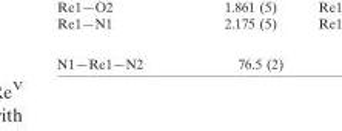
<table><tbody><tr><td>N1—Re1—N2</td><td>76.5 (2)</td></tr></tbody></table>